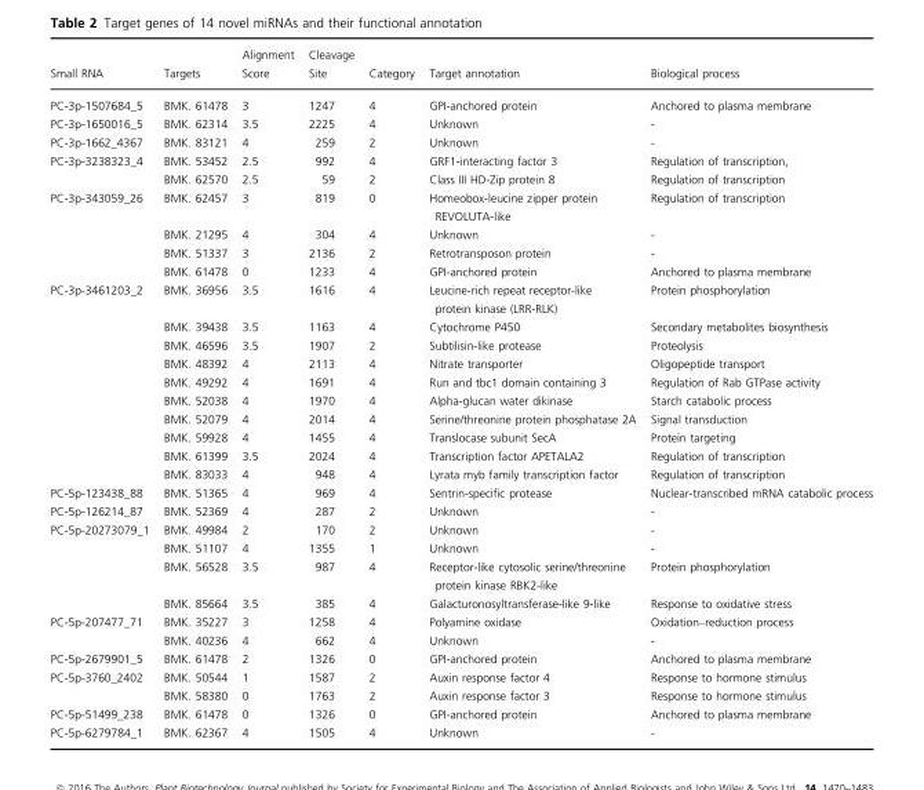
<table><thead><tr><td>Small RNA</td><td>Targets</td><td>Alignment Score</td><td>Cleavage Site</td><td>Category</td><td>Target annotation</td><td>Biological process</td></tr></thead><tbody><tr><td>PC-3p-1507684_5</td><td>BMK. 61478</td><td>3</td><td>1247</td><td>4</td><td>GPI-anchored protein</td><td>Anchored to plasma membrane</td></tr><tr><td>PC-3p-1650016_5</td><td>BMK. 62314</td><td>3.5</td><td>2225</td><td>4</td><td>Unknown</td><td>-</td></tr><tr><td>PC-3p-1662_4367</td><td>BMK. 83121</td><td>4</td><td>259</td><td>2</td><td>Unknown</td><td>-</td></tr><tr><td rowspan="2">PC-3p-3238323_4</td><td>BMK. 53452</td><td>2.5</td><td>992</td><td>4</td><td>GRF1-interacting factor 3</td><td>Regulation of transcription,</td></tr><tr><td>BMK. 62570</td><td>2.5</td><td>59</td><td>2</td><td>Class III HD-Zip protein 8</td><td>Regulation of transcription</td></tr><tr><td rowspan="4">PC-3p-343059_26</td><td>BMK. 62457</td><td>3</td><td>819</td><td>0</td><td>Homeobox-leucine zipper protein REVOLUTA-like</td><td>Regulation of transcription</td></tr><tr><td>BMK. 21295</td><td>4</td><td>304</td><td>4</td><td>Unknown</td><td>-</td></tr><tr><td>BMK. 51337</td><td>3</td><td>2136</td><td>2</td><td>Retrotransposon protein</td><td>-</td></tr><tr><td>BMK. 61478</td><td>0</td><td>1233</td><td>4</td><td>GPI-anchored protein</td><td>Anchored to plasma membrane</td></tr><tr><td rowspan="10">PC-3p-3461203_2</td><td>BMK. 36956</td><td>3.5</td><td>1616</td><td>4</td><td>Leucine-rich repeat receptor-like protein kinase (LRR-RLK)</td><td>Protein phosphorylation</td></tr><tr><td>BMK. 39438</td><td>3.5</td><td>1163</td><td>4</td><td>Cytochrome P450</td><td>Secondary metabolites biosynthesis</td></tr><tr><td>BMK. 46596</td><td>3.5</td><td>1907</td><td>2</td><td>Subtilisin-like protease</td><td>Proteolysis</td></tr><tr><td>BMK. 48392</td><td>4</td><td>2113</td><td>4</td><td>Nitrate transporter</td><td>Oligopeptide transport</td></tr><tr><td>BMK. 49292</td><td>4</td><td>1691</td><td>4</td><td>Run and tbc1 domain containing 3</td><td>Regulation of Rab GTPase activity</td></tr><tr><td>BMK. 52038</td><td>4</td><td>1970</td><td>4</td><td>Alpha-glucan water dikinase</td><td>Starch catabolic process</td></tr><tr><td>BMK. 52079</td><td>4</td><td>2014</td><td>4</td><td>Serine/threonine protein phosphatase 2A</td><td>Signal transduction</td></tr><tr><td>BMK. 59928</td><td>4</td><td>1455</td><td>4</td><td>Translocase subunit SecA</td><td>Protein targeting</td></tr><tr><td>BMK. 61399</td><td>3.5</td><td>2024</td><td>4</td><td>Transcription factor APETALA2</td><td>Regulation of transcription</td></tr><tr><td>BMK. 83033</td><td>4</td><td>948</td><td>4</td><td>Lyrata myb family transcription factor</td><td>Regulation of transcription</td></tr><tr><td>PC-5p-123438_88</td><td>BMK. 51365</td><td>4</td><td>969</td><td>4</td><td>Sentrin-specific protease</td><td>Nuclear-transcribed mRNA catabolic process</td></tr><tr><td>PC-5p-126214_87</td><td>BMK. 52369</td><td>4</td><td>287</td><td>2</td><td>Unknown</td><td>-</td></tr><tr><td rowspan="4">PC-5p-20273079_1</td><td>BMK. 49984</td><td>2</td><td>170</td><td>2</td><td>Unknown</td><td>-</td></tr><tr><td>BMK. 51107</td><td>4</td><td>1355</td><td>1</td><td>Unknown</td><td>-</td></tr><tr><td>BMK. 56528</td><td>3.5</td><td>987</td><td>4</td><td>Receptor-like cytosolic serine/threonine protein kinase RBK2-like</td><td>Protein phosphorylation</td></tr><tr><td>BMK. 85664</td><td>3.5</td><td>385</td><td>4</td><td>Galacturonosyltransferase-like 9-like</td><td>Response to oxidative stress</td></tr><tr><td rowspan="2">PC-5p-207477_71</td><td>BMK. 35227</td><td>3</td><td>1258</td><td>4</td><td>Polyamine oxidase</td><td>Oxidation–reduction process</td></tr><tr><td>BMK. 40236</td><td>4</td><td>662</td><td>4</td><td>Unknown</td><td>-</td></tr><tr><td>PC-5p-2679901_5</td><td>BMK. 61478</td><td>2</td><td>1326</td><td>0</td><td>GPI-anchored protein</td><td>Anchored to plasma membrane</td></tr><tr><td rowspan="2">PC-5p-3760_2402</td><td>BMK. 50544</td><td>1</td><td>1587</td><td>2</td><td>Auxin response factor 4</td><td>Response to hormone stimulus</td></tr><tr><td>BMK. 58380</td><td>0</td><td>1763</td><td>2</td><td>Auxin response factor 3</td><td>Response to hormone stimulus</td></tr><tr><td>PC-5p-51499_238</td><td>BMK. 61478</td><td>0</td><td>1326</td><td>0</td><td>GPI-anchored protein</td><td>Anchored to plasma membrane</td></tr><tr><td>PC-5p-6279784_1</td><td>BMK. 62367</td><td>4</td><td>1505</td><td>4</td><td>Unknown</td><td>-</td></tr></tbody></table>